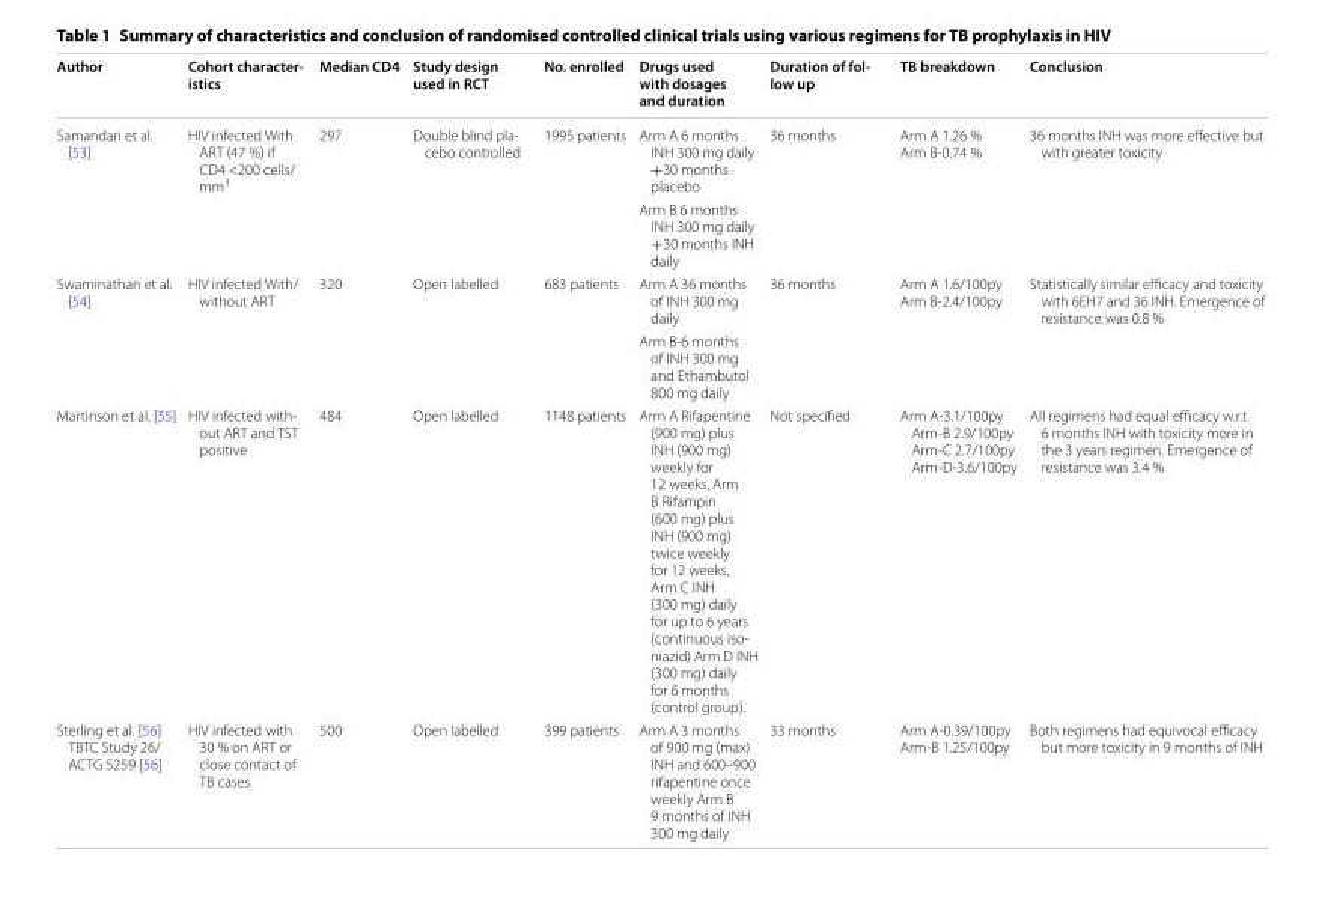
<table><thead><tr><td>Author</td><td>Cohort character- istics</td><td>Median CD4</td><td>Study design used in RCT</td><td>No. enrolled</td><td>Drugs used with dosages and duration</td><td>Duration of fol- low up</td><td>TB breakdown</td><td>Conclusion</td></tr></thead><tbody><tr><td rowspan="2">Samandari et al. [53]</td><td rowspan="2">HIV infected With ART (47 %) if CD4 &lt;200 cells/ mm<sup>3</sup></td><td rowspan="2">297</td><td rowspan="2">Double blind pla- cebo controlled</td><td rowspan="2">1995 patients</td><td>Arm A 6 months INH 300 mg daily +30 months placebo</td><td rowspan="2">36 months</td><td rowspan="2">Arm A 1.26 % Arm B-0.74 %</td><td rowspan="2">36 months INH was more effective but with greater toxicity</td></tr><tr><td>Arm B 6 months INH 300 mg daily +30 months INH daily</td></tr><tr><td rowspan="2">Swaminathan et al. [54]</td><td rowspan="2">HIV infected With/ without ART</td><td rowspan="2">320</td><td rowspan="2">Open labelled</td><td rowspan="2">683 patients</td><td>Arm A 36 months of INH 300 mg daily</td><td rowspan="2">36 months</td><td rowspan="2">Arm A 1.6/100py Arm B-2.4/100py</td><td rowspan="2">Statistically similar efficacy and toxicity with 6EH7 and 36 INH. Emergence of resistance was 0.8 %</td></tr><tr><td>Arm B-6 months of INH 300 mg and Ethambutol 800 mg daily</td></tr><tr><td>Martinson et al. [55]</td><td>HIV infected with- out ART and TST positive</td><td>484</td><td>Open labelled</td><td>1148 patients</td><td>Arm A Rifapentine (900 mg) plus INH (900 mg) weekly for 12 weeks, Arm B Rifampin (600 mg) plus INH (900 mg) twice weekly for 12 weeks, Arm C INH (300 mg) daily for up to 6 years (continuous iso- niazid) Arm D INH (300 mg) daily for 6 months (control group).</td><td>Not specified</td><td>Arm A-3.1/100py Arm-B 2.9/100py Arm-C 2.7/100py Arm-D-3.6/100py</td><td>All regimens had equal efficacy w.r.t 6 months INH with toxicity more in the 3 years regimen. Emergence of resistance was 3.4 %</td></tr><tr><td>Sterling et al. [56] TBTC Study 26/ ACTG 5259 [56]</td><td>HIV infected with 30 % on ART or close contact of TB cases</td><td>500</td><td>Open labelled</td><td>399 patients</td><td>Arm A 3 months of 900 mg (max) INH and 600–900 rifapentine once weekly Arm B 9 months of INH 300 mg daily</td><td>33 months</td><td>Arm A-0.39/100py Arm-B 1.25/100py</td><td>Both regimens had equivocal efficacy but more toxicity in 9 months of INH</td></tr></tbody></table>